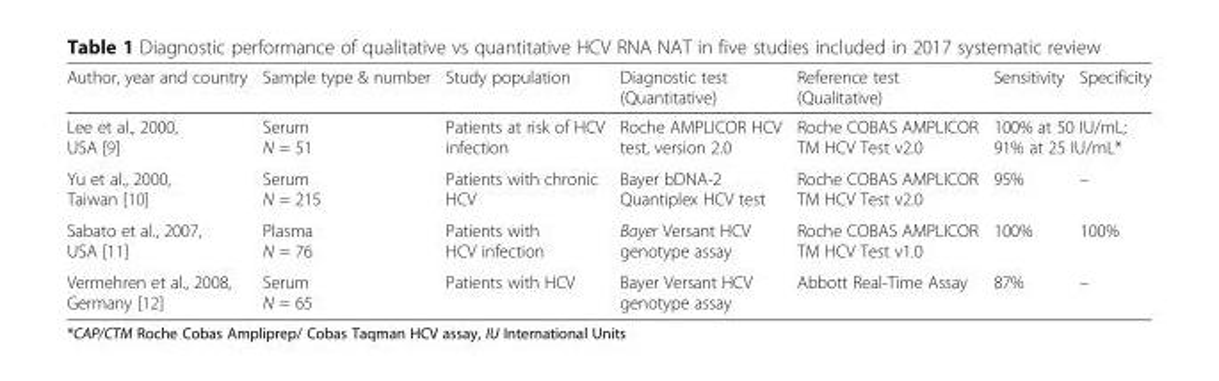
<table><thead><tr><td>Author, year and country</td><td>Sample type &amp; number</td><td>Study population</td><td>Diagnostic test (Quantitative)</td><td>Reference test (Qualitative)</td><td>Sensitivity</td><td>Specificity</td></tr></thead><tbody><tr><td>Lee et al., 2000, USA [9]</td><td>Serum N = 51</td><td>Patients at risk of HCV infection</td><td>Roche AMPLICOR HCV test, version 2.0</td><td>Roche COBAS AMPLICOR TM HCV Test v2.0</td><td colspan="2">100% at 50 IU/mL; 91% at 25 IU/mL*</td></tr><tr><td>Yu et al., 2000, Taiwan [10]</td><td>Serum N = 215</td><td>Patients with chronic HCV</td><td>Bayer bDNA-2 Quantiplex HCV test</td><td>Roche COBAS AMPLICOR TM HCV Test v2.0</td><td>95%</td><td>–</td></tr><tr><td>Sabato et al., 2007, USA [11]</td><td>Plasma N = 76</td><td>Patients with HCV infection</td><td>Bayer Versant HCV genotype assay</td><td>Roche COBAS AMPLICOR TM HCV Test v1.0</td><td>100%</td><td>100%</td></tr><tr><td>Vermehren et al., 2008, Germany [12]</td><td>Serum N = 65</td><td>Patients with HCV</td><td>Bayer Versant HCV genotype assay</td><td>Abbott Real-Time Assay</td><td>87%</td><td>–</td></tr></tbody></table>